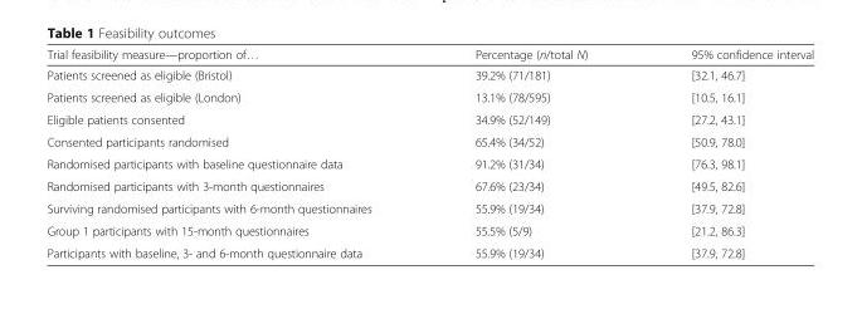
<table><thead><tr><td>Trial feasibility measure—proportion of…</td><td>Percentage (n/total N)</td><td>95% confidence interval</td></tr></thead><tbody><tr><td>Patients screened as eligible (Bristol)</td><td>39.2% (71/181)</td><td>[32.1, 46.7]</td></tr><tr><td>Patients screened as eligible (London)</td><td>13.1% (78/595)</td><td>[10.5, 16.1]</td></tr><tr><td>Eligible patients consented</td><td>34.9% (52/149)</td><td>[27.2, 43.1]</td></tr><tr><td>Consented participants randomised</td><td>65.4% (34/52)</td><td>[50.9, 78.0]</td></tr><tr><td>Randomised participants with baseline questionnaire data</td><td>91.2% (31/34)</td><td>[76.3, 98.1]</td></tr><tr><td>Randomised participants with 3-month questionnaires</td><td>67.6% (23/34)</td><td>[49.5, 82.6]</td></tr><tr><td>Surviving randomised participants with 6-month questionnaires</td><td>55.9% (19/34)</td><td>[37.9, 72.8]</td></tr><tr><td>Group 1 participants with 15-month questionnaires</td><td>55.5% (5/9)</td><td>[21.2, 86.3]</td></tr><tr><td>Participants with baseline, 3- and 6-month questionnaire data</td><td>55.9% (19/34)</td><td>[37.9, 72.8]</td></tr></tbody></table>